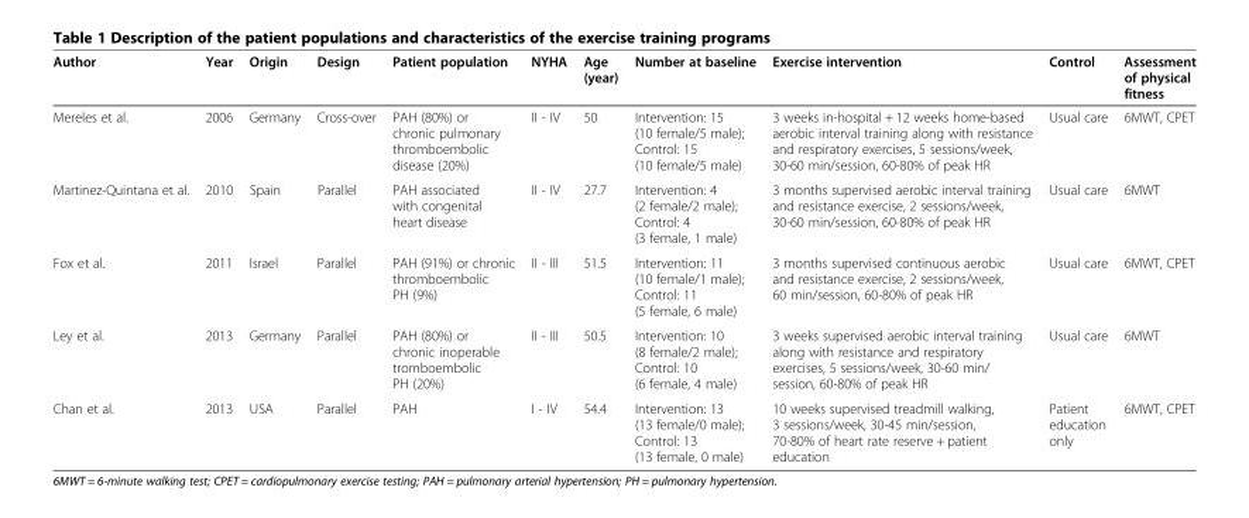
<table><thead><tr><td>Author</td><td>Year</td><td>Origin</td><td>Design</td><td>Patient population</td><td>NYHA</td><td>Age (year)</td><td>Number at baseline</td><td>Exercise intervention</td><td>Control</td><td>Assessment of physical fitness</td></tr></thead><tbody><tr><td>Mereles et al.</td><td>2006</td><td>Germany</td><td>Cross-over</td><td>PAH (80%) or chronic pulmonary thromboembolic disease (20%)</td><td>II - IV</td><td>50</td><td>Intervention: 15 (10 female/5 male); Control: 15 (10 female/5 male)</td><td>3 weeks in-hospital + 12 weeks home-based aerobic interval training along with resistance and respiratory exercises, 5 sessions/week, 30-60 min/session, 60-80% of peak HR</td><td>Usual care</td><td>6MWT, CPET</td></tr><tr><td>Martinez-Quintana et al.</td><td>2010</td><td>Spain</td><td>Parallel</td><td>PAH associated with congenital heart disease</td><td>II - IV</td><td>27.7</td><td>Intervention: 4 (2 female/2 male); Control: 4 (3 female, 1 male)</td><td>3 months supervised aerobic interval training and resistance exercise, 2 sessions/week, 30-60 min/session, 60-80% of peak HR</td><td>Usual care</td><td>6MWT</td></tr><tr><td>Fox et al.</td><td>2011</td><td>Israel</td><td>Parallel</td><td>PAH (91%) or chronic thromboembolic PH (9%)</td><td>II - III</td><td>51.5</td><td>Intervention: 11 (10 female/1 male); Control: 11 (5 female, 6 male)</td><td>3 months supervised continuous aerobic and resistance exercise, 2 sessions/week, 60 min/session, 60-80% of peak HR</td><td>Usual care</td><td>6MWT, CPET</td></tr><tr><td>Ley et al.</td><td>2013</td><td>Germany</td><td>Parallel</td><td>PAH (80%) or chronic inoperable tromboembolic PH (20%)</td><td>II - III</td><td>50.5</td><td>Intervention: 10 (8 female/2 male); Control: 10 (6 female, 4 male)</td><td>3 weeks supervised aerobic interval training along with resistance and respiratory exercises, 5 sessions/week, 30-60 min/ session, 60-80% of peak HR</td><td>Usual care</td><td>6MWT</td></tr><tr><td>Chan et al.</td><td>2013</td><td>USA</td><td>Parallel</td><td>PAH</td><td>I - IV</td><td>54.4</td><td>Intervention: 13 (13 female/0 male); Control: 13 (13 female, 0 male)</td><td>10 weeks supervised treadmill walking, 3 sessions/week, 30-45 min/session, 70-80% of heart rate reserve + patient education</td><td>Patient education only</td><td>6MWT, CPET</td></tr></tbody></table>